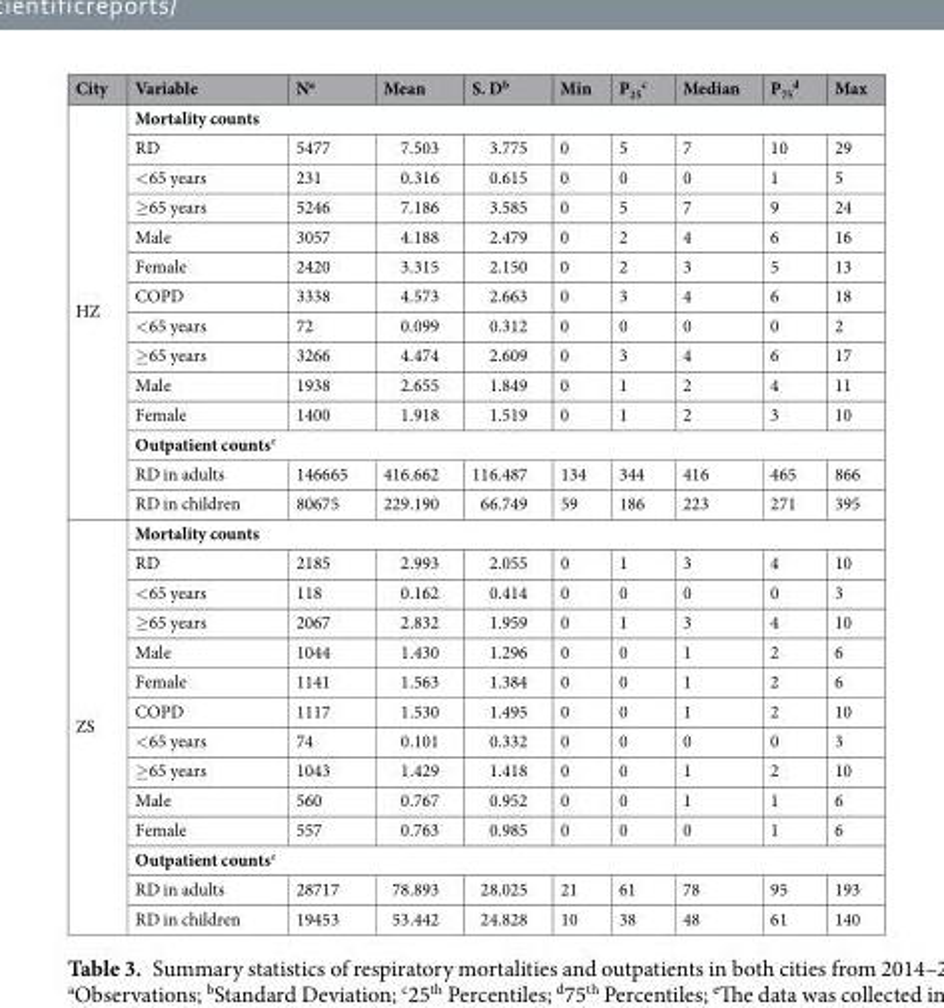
<table><thead><tr><td>City</td><td>Variable</td><td>N<sup>a</sup></td><td>Mean</td><td>S. D<sup>b</sup></td><td>Min</td><td>P<sub>25</sub> <sup>c</sup></td><td>Median</td><td>P<sub>75</sub> <sup>d</sup></td><td>Max</td></tr></thead><tbody><tr><td rowspan="14">HZ</td><td colspan="9">Mortality counts</td></tr><tr><td>RD</td><td>5477</td><td>7.503</td><td>3.775</td><td>0</td><td>5</td><td>7</td><td>10</td><td>29</td></tr><tr><td>&lt;65 years</td><td>231</td><td>0.316</td><td>0.615</td><td>0</td><td>0</td><td>0</td><td>1</td><td>5</td></tr><tr><td>≥65 years</td><td>5246</td><td>7.186</td><td>3.585</td><td>0</td><td>5</td><td>7</td><td>9</td><td>24</td></tr><tr><td>Male</td><td>3057</td><td>4.188</td><td>2.479</td><td>0</td><td>2</td><td>4</td><td>6</td><td>16</td></tr><tr><td>Female</td><td>2420</td><td>3.315</td><td>2.150</td><td>0</td><td>2</td><td>3</td><td>5</td><td>13</td></tr><tr><td>COPD</td><td>3338</td><td>4.573</td><td>2.663</td><td>0</td><td>3</td><td>4</td><td>6</td><td>18</td></tr><tr><td>&lt;65 years</td><td>72</td><td>0.099</td><td>0.312</td><td>0</td><td>0</td><td>0</td><td>0</td><td>2</td></tr><tr><td>≥65 years</td><td>3266</td><td>4.474</td><td>2.609</td><td>0</td><td>3</td><td>4</td><td>6</td><td>17</td></tr><tr><td>Male</td><td>1938</td><td>2.655</td><td>1.849</td><td>0</td><td>1</td><td>2</td><td>4</td><td>11</td></tr><tr><td>Female</td><td>1400</td><td>1.918</td><td>1.519</td><td>0</td><td>1</td><td>2</td><td>3</td><td>10</td></tr><tr><td colspan="9">Outpatient counts<sup>e</sup></td></tr><tr><td>RD in adults</td><td>146665</td><td>416.662</td><td>116.487</td><td>134</td><td>344</td><td>416</td><td>465</td><td>866</td></tr><tr><td>RD in children</td><td>80675</td><td>229.190</td><td>66.749</td><td>59</td><td>186</td><td>223</td><td>271</td><td>395</td></tr><tr><td rowspan="14">ZS</td><td colspan="9">Mortality counts</td></tr><tr><td>RD</td><td>2185</td><td>2.993</td><td>2.055</td><td>0</td><td>1</td><td>3</td><td>4</td><td>10</td></tr><tr><td>&lt;65 years</td><td>118</td><td>0.162</td><td>0.414</td><td>0</td><td>0</td><td>0</td><td>0</td><td>3</td></tr><tr><td>≥65 years</td><td>2067</td><td>2.832</td><td>1.959</td><td>0</td><td>1</td><td>3</td><td>4</td><td>10</td></tr><tr><td>Male</td><td>1044</td><td>1.430</td><td>1.296</td><td>0</td><td>0</td><td>1</td><td>2</td><td>6</td></tr><tr><td>Female</td><td>1141</td><td>1.563</td><td>1.384</td><td>0</td><td>0</td><td>1</td><td>2</td><td>6</td></tr><tr><td>COPD</td><td>1117</td><td>1.530</td><td>1.495</td><td>0</td><td>0</td><td>1</td><td>2</td><td>10</td></tr><tr><td>&lt;65 years</td><td>74</td><td>0.101</td><td>0.332</td><td>0</td><td>0</td><td>0</td><td>0</td><td>3</td></tr><tr><td>≥65 years</td><td>1043</td><td>1.429</td><td>1.418</td><td>0</td><td>0</td><td>1</td><td>2</td><td>10</td></tr><tr><td>Male</td><td>560</td><td>0.767</td><td>0.952</td><td>0</td><td>0</td><td>1</td><td>1</td><td>6</td></tr><tr><td>Female</td><td>557</td><td>0.763</td><td>0.985</td><td>0</td><td>0</td><td>0</td><td>1</td><td>6</td></tr><tr><td colspan="9">Outpatient counts<sup>e</sup></td></tr><tr><td>RD in adults</td><td>28717</td><td>78.893</td><td>28.025</td><td>21</td><td>61</td><td>78</td><td>95</td><td>193</td></tr><tr><td>RD in children</td><td>19453</td><td>53.442</td><td>24.828</td><td>10</td><td>38</td><td>48</td><td>61</td><td>140</td></tr></tbody></table>